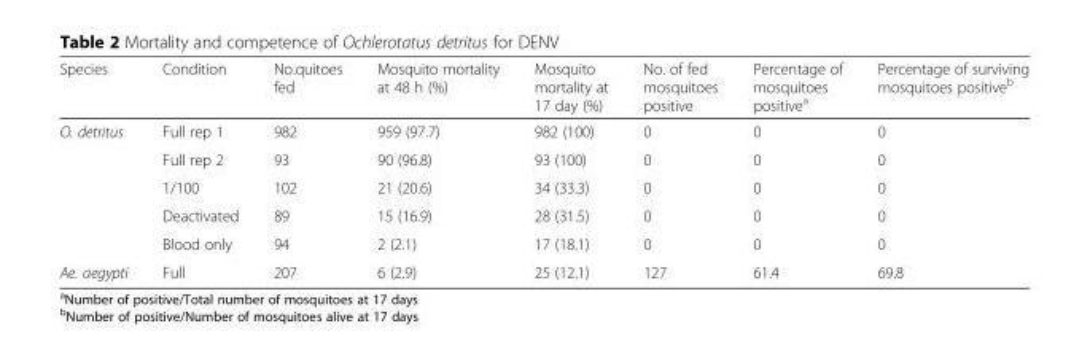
<table><thead><tr><td>Species</td><td>Condition</td><td>No.quitoes fed</td><td>Mosquito mortality at 48 h (%)</td><td>Mosquito mortality at 17 day (%)</td><td>No. of fed mosquitoes positive</td><td>Percentage of mosquitoes positive<sup>a</sup></td><td>Percentage of surviving mosquitoes positive<sup>b</sup></td></tr></thead><tbody><tr><td rowspan="5">O. detritus</td><td>Full rep 1</td><td>982</td><td>959 (97.7)</td><td>982 (100)</td><td>0</td><td>0</td><td>0</td></tr><tr><td>Full rep 2</td><td>93</td><td>90 (96.8)</td><td>93 (100)</td><td>0</td><td>0</td><td>0</td></tr><tr><td>1/100</td><td>102</td><td>21 (20.6)</td><td>34 (33.3)</td><td>0</td><td>0</td><td>0</td></tr><tr><td>Deactivated</td><td>89</td><td>15 (16.9)</td><td>28 (31.5)</td><td>0</td><td>0</td><td>0</td></tr><tr><td>Blood only</td><td>94</td><td>2 (2.1)</td><td>17 (18.1)</td><td>0</td><td>0</td><td>0</td></tr><tr><td>Ae. aegypti</td><td>Full</td><td>207</td><td>6 (2.9)</td><td>25 (12.1)</td><td>127</td><td>61.4</td><td>69.8</td></tr></tbody></table>